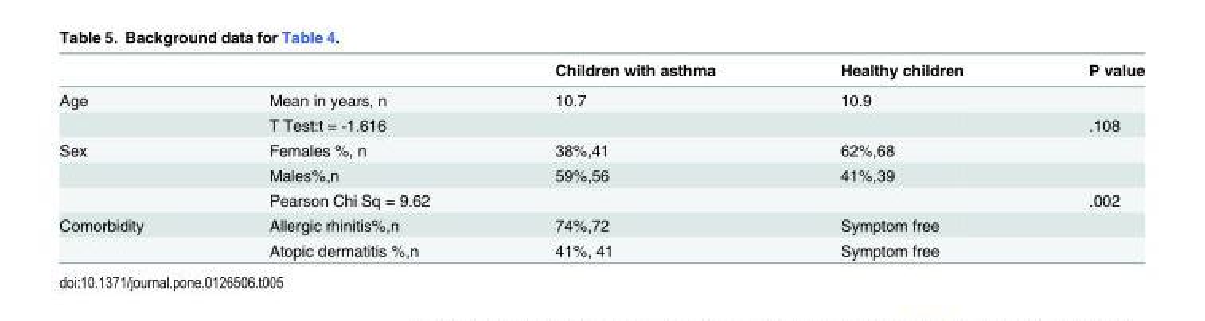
<table><thead><tr><td></td><td></td><td>Children with asthma</td><td>Healthy children</td><td>P value</td></tr></thead><tbody><tr><td rowspan="2">Age</td><td>Mean in years, n</td><td>10.7</td><td>10.9</td><td></td></tr><tr><td>T Test:t = -1.616</td><td></td><td></td><td>.108</td></tr><tr><td rowspan="3">Sex</td><td>Females %, n</td><td>38%,41</td><td>62%,68</td><td></td></tr><tr><td>Males%,n</td><td>59%,56</td><td>41%,39</td><td></td></tr><tr><td>Pearson Chi Sq = 9.62</td><td></td><td></td><td>.002</td></tr><tr><td rowspan="2">Comorbidity</td><td>Allergic rhinitis%,n</td><td>74%,72</td><td>Symptom free</td><td></td></tr><tr><td>Atopic dermatitis %,n</td><td>41%, 41</td><td>Symptom free</td><td></td></tr></tbody></table>